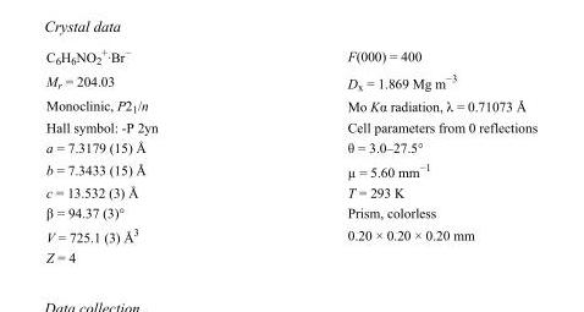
<table><tbody><tr><td>C<sub>6</sub>H<sub>6</sub>NO<sub>2</sub> <sup>+</sup>·Br<sup>−</sup></td><td>F(000) = 400</td></tr><tr><td>M<sub>r</sub> = 204.03</td><td>D<sub>x</sub> = 1.869 Mg m<sup>−3</sup></td></tr><tr><td>Monoclinic, P2<sub>1</sub>/n</td><td>Mo Kα radiation, λ = 0.71073 Å</td></tr><tr><td>Hall symbol: -P 2yn</td><td>Cell parameters from 0 reflections</td></tr><tr><td>a = 7.3179 (15) Å</td><td>θ = 3.0–27.5°</td></tr><tr><td>b = 7.3433 (15) Å</td><td>µ = 5.60 mm<sup>−1</sup></td></tr><tr><td>c = 13.532 (3) Å</td><td>T = 293 K</td></tr><tr><td>β = 94.37 (3)°</td><td>Prism, colorless</td></tr><tr><td>V = 725.1 (3) Å<sup>3</sup></td><td>0.20 × 0.20 × 0.20 mm</td></tr><tr><td>Z = 4</td><td></td></tr></tbody></table>